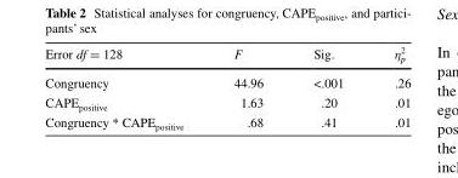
<table><thead><tr><td>Error df = 128</td><td>F</td><td>Sig.</td><td>η<sub>p</sub> <sup>2</sup></td></tr></thead><tbody><tr><td>Congruency</td><td>44.96</td><td>&lt;.001</td><td>.26</td></tr><tr><td>CAPE<sub>positive</sub></td><td>1.63</td><td>.20</td><td>.01</td></tr><tr><td>Congruency * CAPE<sub>positive</sub></td><td>.68</td><td>.41</td><td>.01</td></tr></tbody></table>